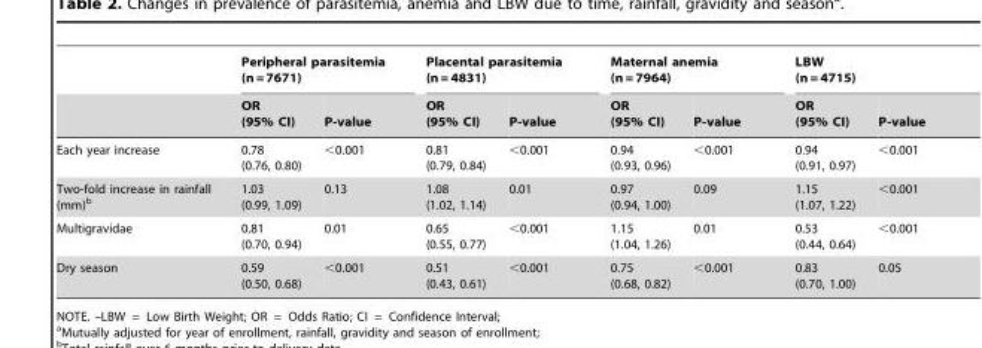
<table><thead><tr><td rowspan="2"></td><td colspan="2">Peripheral parasitemia (n = 7671)</td><td colspan="2">Placental parasitemia (n = 4831)</td><td colspan="2">Maternal anemia (n = 7964)</td><td colspan="2">LBW (n = 4715)</td></tr><tr><td>OR (95% CI)</td><td>P-value</td><td>OR (95% CI)</td><td>P-value</td><td>OR (95% CI)</td><td>P-value</td><td>OR (95% CI)</td><td>P-value</td></tr></thead><tbody><tr><td>Each year increase</td><td>0.78 (0.76, 0.80)</td><td>&lt;0.001</td><td>0.81 (0.79, 0.84)</td><td>&lt;0.001</td><td>0.94 (0.93, 0.96)</td><td>&lt;0.001</td><td>0.94 (0.91, 0.97)</td><td>&lt;0.001</td></tr><tr><td>Two-fold increase in rainfall (mm)<sup>b</sup></td><td>1.03 (0.99, 1.09)</td><td>0.13</td><td>1.08 (1.02, 1.14)</td><td>0.01</td><td>0.97 (0.94, 1.00)</td><td>0.09</td><td>1.15 (1.07, 1.22)</td><td>&lt;0.001</td></tr><tr><td>Multigravidae</td><td>0.81 (0.70, 0.94)</td><td>0.01</td><td>0.65 (0.55, 0.77)</td><td>&lt;0.001</td><td>1.15 (1.04, 1.26)</td><td>0.01</td><td>0.53 (0.44, 0.64)</td><td>&lt;0.001</td></tr><tr><td>Dry season</td><td>0.59 (0.50, 0.68)</td><td>&lt;0.001</td><td>0.51 (0.43, 0.61)</td><td>&lt;0.001</td><td>0.75 (0.68, 0.82)</td><td>&lt;0.001</td><td>0.83 (0.70, 1.00)</td><td>0.05</td></tr></tbody></table>